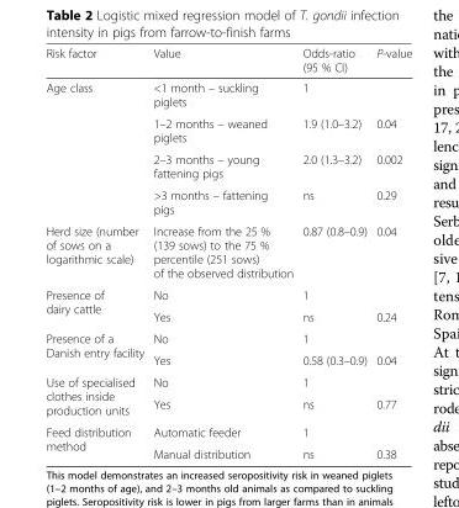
<table><thead><tr><td>Risk factor</td><td>Value</td><td>Odds-ratio (95 % CI)</td><td>P-value</td></tr></thead><tbody><tr><td rowspan="4">Age class</td><td>&lt;1 month – suckling piglets</td><td>1</td><td></td></tr><tr><td>1–2 months – weaned piglets</td><td>1.9 (1.0–3.2)</td><td>0.04</td></tr><tr><td>2–3 months – young fattening pigs</td><td>2.0 (1.3–3.2)</td><td>0.002</td></tr><tr><td>&gt;3 months – fattening pigs</td><td>ns</td><td>0.29</td></tr><tr><td>Herd size (number of sows on a logarithmic scale)</td><td>Increase from the 25 % (139 sows) to the 75 % percentile (251 sows) of the observed distribution</td><td>0.87 (0.8–0.9)</td><td>0.04</td></tr><tr><td rowspan="2">Presence of dairy cattle</td><td>No</td><td>1</td><td></td></tr><tr><td>Yes</td><td>ns</td><td>0.24</td></tr><tr><td rowspan="2">Presence of a Danish entry facility</td><td>No</td><td>1</td><td></td></tr><tr><td>Yes</td><td>0.58 (0.3–0.9)</td><td>0.04</td></tr><tr><td rowspan="2">Use of specialised clothes inside production units</td><td>No</td><td>1</td><td></td></tr><tr><td>Yes</td><td>ns</td><td>0.77</td></tr><tr><td rowspan="2">Feed distribution method</td><td>Automatic feeder</td><td>1</td><td></td></tr><tr><td>Manual distribution</td><td>ns</td><td>0.38</td></tr></tbody></table>